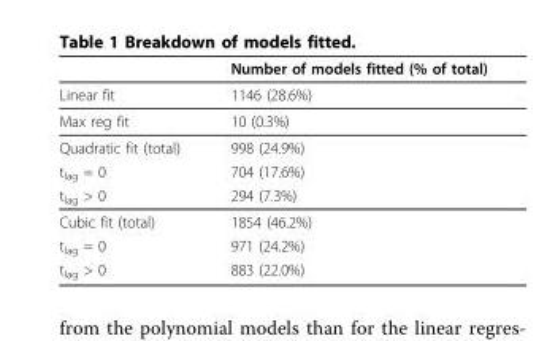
<table><thead><tr><td></td><td>Number of models fitted (% of total)</td></tr></thead><tbody><tr><td>Linear fit</td><td>1146 (28.6%)</td></tr><tr><td>Max reg fit</td><td>10 (0.3%)</td></tr><tr><td>Quadratic fit (total)</td><td>998 (24.9%)</td></tr><tr><td>t<sub>lag</sub> = 0</td><td>704 (17.6%)</td></tr><tr><td>t<sub>lag</sub> &gt; 0</td><td>294 (7.3%)</td></tr><tr><td>Cubic fit (total)</td><td>1854 (46.2%)</td></tr><tr><td>t<sub>lag</sub> = 0</td><td>971 (24.2%)</td></tr><tr><td>t<sub>lag</sub> &gt; 0</td><td>883 (22.0%)</td></tr></tbody></table>